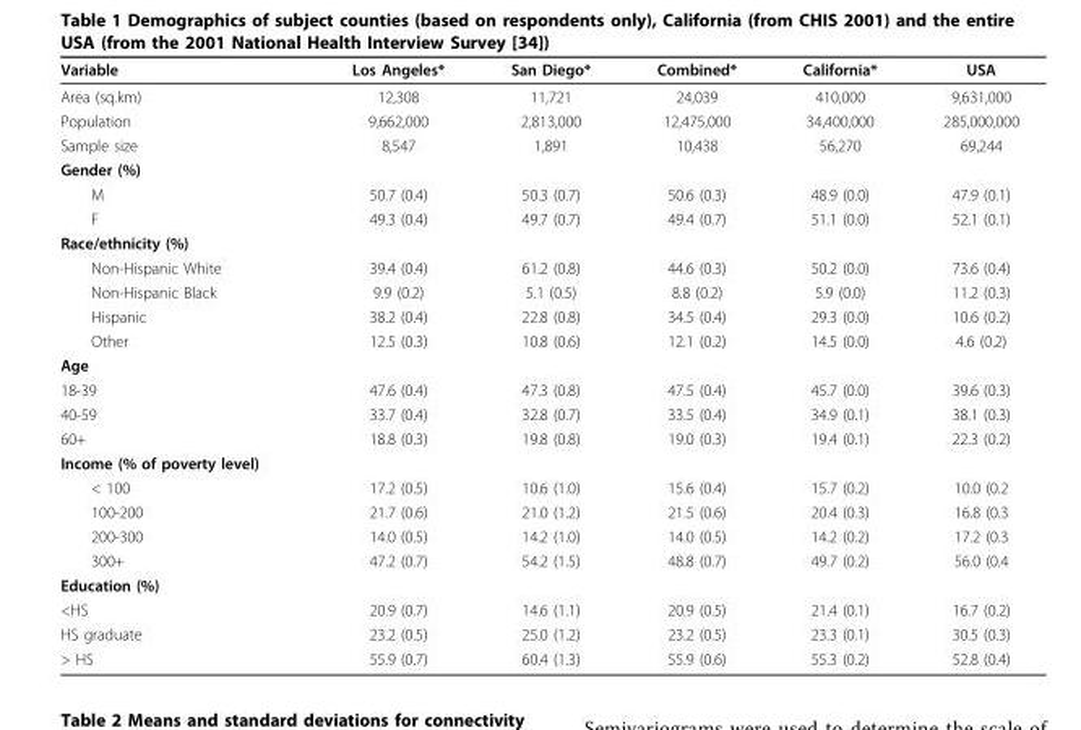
<table><thead><tr><td>Variable</td><td>Los Angeles*</td><td>San Diego*</td><td>Combined*</td><td>California*</td><td>USA</td></tr></thead><tbody><tr><td>Area (sq.km)</td><td>12,308</td><td>11,721</td><td>24,039</td><td>410,000</td><td>9,631,000</td></tr><tr><td>Population</td><td>9,662,000</td><td>2,813,000</td><td>12,475,000</td><td>34,400,000</td><td>285,000,000</td></tr><tr><td>Sample size</td><td>8,547</td><td>1,891</td><td>10,438</td><td>56,270</td><td>69,244</td></tr><tr><td colspan="6">Gender (%)</td></tr><tr><td>M</td><td>50.7 (0.4)</td><td>50.3 (0.7)</td><td>50.6 (0.3)</td><td>48.9 (0.0)</td><td>47.9 (0.1)</td></tr><tr><td>F</td><td>49.3 (0.4)</td><td>49.7 (0.7)</td><td>49.4 (0.7)</td><td>51.1 (0.0)</td><td>52.1 (0.1)</td></tr><tr><td colspan="6">Race/ethnicity (%)</td></tr><tr><td>Non-Hispanic White</td><td>39.4 (0.4)</td><td>61.2 (0.8)</td><td>44.6 (0.3)</td><td>50.2 (0.0)</td><td>73.6 (0.4)</td></tr><tr><td>Non-Hispanic Black</td><td>9.9 (0.2)</td><td>5.1 (0.5)</td><td>8.8 (0.2)</td><td>5.9 (0.0)</td><td>11.2 (0.3)</td></tr><tr><td>Hispanic</td><td>38.2 (0.4)</td><td>22.8 (0.8)</td><td>34.5 (0.4)</td><td>29.3 (0.0)</td><td>10.6 (0.2)</td></tr><tr><td>Other</td><td>12.5 (0.3)</td><td>10.8 (0.6)</td><td>12.1 (0.2)</td><td>14.5 (0.0)</td><td>4.6 (0.2)</td></tr><tr><td colspan="6">Age</td></tr><tr><td>18-39</td><td>47.6 (0.4)</td><td>47.3 (0.8)</td><td>47.5 (0.4)</td><td>45.7 (0.0)</td><td>39.6 (0.3)</td></tr><tr><td>40-59</td><td>33.7 (0.4)</td><td>32.8 (0.7)</td><td>33.5 (0.4)</td><td>34.9 (0.1)</td><td>38.1 (0.3)</td></tr><tr><td>60+</td><td>18.8 (0.3)</td><td>19.8 (0.8)</td><td>19.0 (0.3)</td><td>19.4 (0.1)</td><td>22.3 (0.2)</td></tr><tr><td colspan="6">Income (% of poverty level)</td></tr><tr><td>&lt; 100</td><td>17.2 (0.5)</td><td>10.6 (1.0)</td><td>15.6 (0.4)</td><td>15.7 (0.2)</td><td>10.0 (0.2</td></tr><tr><td>100-200</td><td>21.7 (0.6)</td><td>21.0 (1.2)</td><td>21.5 (0.6)</td><td>20.4 (0.3)</td><td>16.8 (0.3</td></tr><tr><td>200-300</td><td>14.0 (0.5)</td><td>14.2 (1.0)</td><td>14.0 (0.5)</td><td>14.2 (0.2)</td><td>17.2 (0.3</td></tr><tr><td>300+</td><td>47.2 (0.7)</td><td>54.2 (1.5)</td><td>48.8 (0.7)</td><td>49.7 (0.2)</td><td>56.0 (0.4</td></tr><tr><td colspan="6">Education (%)</td></tr><tr><td>&lt;HS</td><td>20.9 (0.7)</td><td>14.6 (1.1)</td><td>20.9 (0.5)</td><td>21.4 (0.1)</td><td>16.7 (0.2)</td></tr><tr><td>HS graduate</td><td>23.2 (0.5)</td><td>25.0 (1.2)</td><td>23.2 (0.5)</td><td>23.3 (0.1)</td><td>30.5 (0.3)</td></tr><tr><td>&gt; HS</td><td>55.9 (0.7)</td><td>60.4 (1.3)</td><td>55.9 (0.6)</td><td>55.3 (0.2)</td><td>52.8 (0.4)</td></tr></tbody></table>